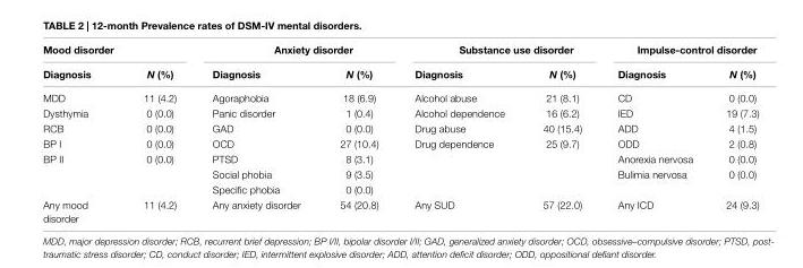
<table><thead><tr><td colspan="2">Mood disorder</td><td colspan="2">anxiety disorder</td><td colspan="2">substance use disorder</td><td colspan="2">impulse-control disorder</td></tr><tr><td>Diagnosis</td><td>N (%)</td><td>Diagnosis</td><td>N (%)</td><td>Diagnosis</td><td>N (%)</td><td>Diagnosis</td><td>N (%)</td></tr></thead><tbody><tr><td>MDD</td><td>11 (4.2)</td><td>Agoraphobia</td><td>18 (6.9)</td><td>Alcohol abuse</td><td>21 (8.1)</td><td>CD</td><td>0 (0.0)</td></tr><tr><td>Dysthymia</td><td>0 (0.0)</td><td>Panic disorder</td><td>1 (0.4)</td><td>Alcohol dependence</td><td>16 (6.2)</td><td>IED</td><td>19 (7.3)</td></tr><tr><td>RCB</td><td>0 (0.0)</td><td>GAD</td><td>0 (0.0)</td><td>Drug abuse</td><td>40 (15.4)</td><td>ADD</td><td>4 (1.5)</td></tr><tr><td>BP I</td><td>0 (0.0)</td><td>OCD</td><td>27 (10.4)</td><td>Drug dependence</td><td>25 (9.7)</td><td>ODD</td><td>2 (0.8)</td></tr><tr><td rowspan="3">BP II</td><td>0 (0.0)</td><td>PTSD</td><td>8 (3.1)</td><td></td><td></td><td>Anorexia nervosa</td><td>0 (0.0)</td></tr><tr><td></td><td>Social phobia</td><td>9 (3.5)</td><td></td><td></td><td>Bulimia nervosa</td><td>0 (0.0)</td></tr><tr><td></td><td>Specific phobia</td><td>0 (0.0)</td><td></td><td></td><td></td><td></td></tr><tr><td>Any mood disorder</td><td>11 (4.2)</td><td>Any anxiety disorder</td><td>54 (20.8)</td><td>Any SUD</td><td>57 (22.0)</td><td>Any ICD</td><td>24 (9.3)</td></tr></tbody></table>